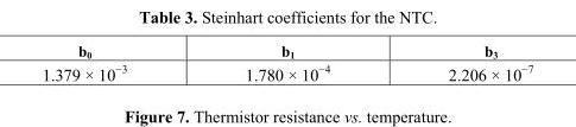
<table><thead><tr><td>b<sub>0</sub></td><td>b<sub>1</sub></td><td>b<sub>3</sub></td></tr></thead><tbody><tr><td>1.379 × 10<sup>−3</sup></td><td>1.780 × 10<sup>−4</sup></td><td>2.206 × 10<sup>−7</sup></td></tr></tbody></table>